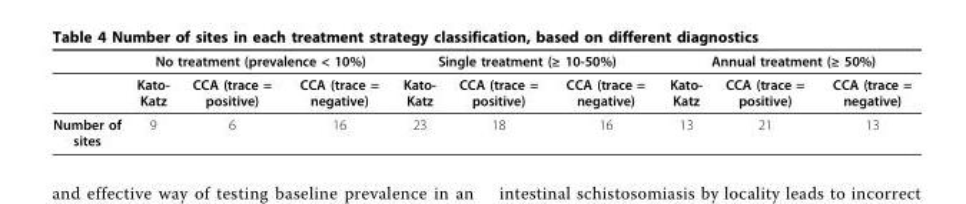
<table><thead><tr><td rowspan="2"></td><td colspan="3">No treatment (prevalence &lt; 10%)</td><td colspan="3">Single treatment (≥ 10-50%)</td><td colspan="3">Annual treatment (≥ 50%)</td></tr><tr><td>Kato- Katz</td><td>CCA (trace = positive)</td><td>CCA (trace = negative)</td><td>Kato- Katz</td><td>CCA (trace = positive)</td><td>CCA (trace = negative)</td><td>Kato- Katz</td><td>CCA (trace = positive)</td><td>CCA (trace = negative)</td></tr></thead><tbody><tr><td>Number of sites</td><td>9</td><td>6</td><td>16</td><td>23</td><td>18</td><td>16</td><td>13</td><td>21</td><td>13</td></tr></tbody></table>